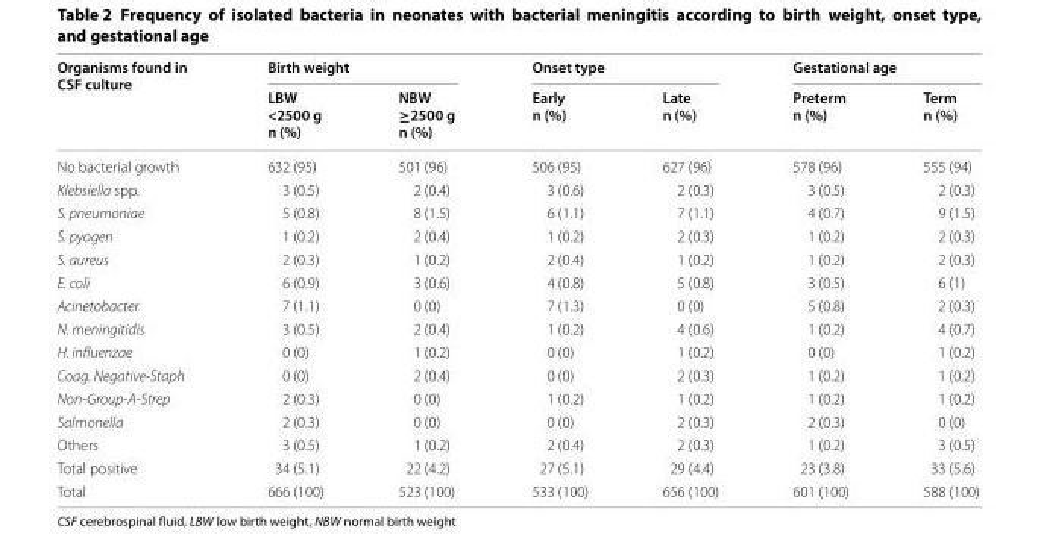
<table><thead><tr><td rowspan="2">Organisms found in CSF culture</td><td colspan="2">Birth weight</td><td colspan="2">Onset type</td><td colspan="2">Gestational age</td></tr><tr><td>LBW &lt;2500 g n (%)</td><td>NBW ≥2500 g n (%)</td><td>Early n (%)</td><td>Late n (%)</td><td>Preterm n (%)</td><td>Term n (%)</td></tr></thead><tbody><tr><td>No bacterial growth</td><td>632 (95)</td><td>501 (96)</td><td>506 (95)</td><td>627 (96)</td><td>578 (96)</td><td>555 (94)</td></tr><tr><td>Klebsiella spp.</td><td>3 (0.5)</td><td>2 (0.4)</td><td>3 (0.6)</td><td>2 (0.3)</td><td>3 (0.5)</td><td>2 (0.3)</td></tr><tr><td>S. pneumoniae</td><td>5 (0.8)</td><td>8 (1.5)</td><td>6 (1.1)</td><td>7 (1.1)</td><td>4 (0.7)</td><td>9 (1.5)</td></tr><tr><td>S. pyogen</td><td>1 (0.2)</td><td>2 (0.4)</td><td>1 (0.2)</td><td>2 (0.3)</td><td>1 (0.2)</td><td>2 (0.3)</td></tr><tr><td>S. aureus</td><td>2 (0.3)</td><td>1 (0.2)</td><td>2 (0.4)</td><td>1 (0.2)</td><td>1 (0.2)</td><td>2 (0.3)</td></tr><tr><td>E. coli</td><td>6 (0.9)</td><td>3 (0.6)</td><td>4 (0.8)</td><td>5 (0.8)</td><td>3 (0.5)</td><td>6 (1)</td></tr><tr><td>Acinetobacter</td><td>7 (1.1)</td><td>0 (0)</td><td>7 (1.3)</td><td>0 (0)</td><td>5 (0.8)</td><td>2 (0.3)</td></tr><tr><td>N. meningitidis</td><td>3 (0.5)</td><td>2 (0.4)</td><td>1 (0.2)</td><td>4 (0.6)</td><td>1 (0.2)</td><td>4 (0.7)</td></tr><tr><td>H. influenzae</td><td>0 (0)</td><td>1 (0.2)</td><td>0 (0)</td><td>1 (0.2)</td><td>0 (0)</td><td>1 (0.2)</td></tr><tr><td>Coag. Negative-Staph</td><td>0 (0)</td><td>2 (0.4)</td><td>0 (0)</td><td>2 (0.3)</td><td>1 (0.2)</td><td>1 (0.2)</td></tr><tr><td>Non-Group-A-Strep</td><td>2 (0.3)</td><td>0 (0)</td><td>1 (0.2)</td><td>1 (0.2)</td><td>1 (0.2)</td><td>1 (0.2)</td></tr><tr><td>Salmonella</td><td>2 (0.3)</td><td>0 (0)</td><td>0 (0)</td><td>2 (0.3)</td><td>2 (0.3)</td><td>0 (0)</td></tr><tr><td>Others</td><td>3 (0.5)</td><td>1 (0.2)</td><td>2 (0.4)</td><td>2 (0.3)</td><td>1 (0.2)</td><td>3 (0.5)</td></tr><tr><td>Total positive</td><td>34 (5.1)</td><td>22 (4.2)</td><td>27 (5.1)</td><td>29 (4.4)</td><td>23 (3.8)</td><td>33 (5.6)</td></tr><tr><td>Total</td><td>666 (100)</td><td>523 (100)</td><td>533 (100)</td><td>656 (100)</td><td>601 (100)</td><td>588 (100)</td></tr></tbody></table>